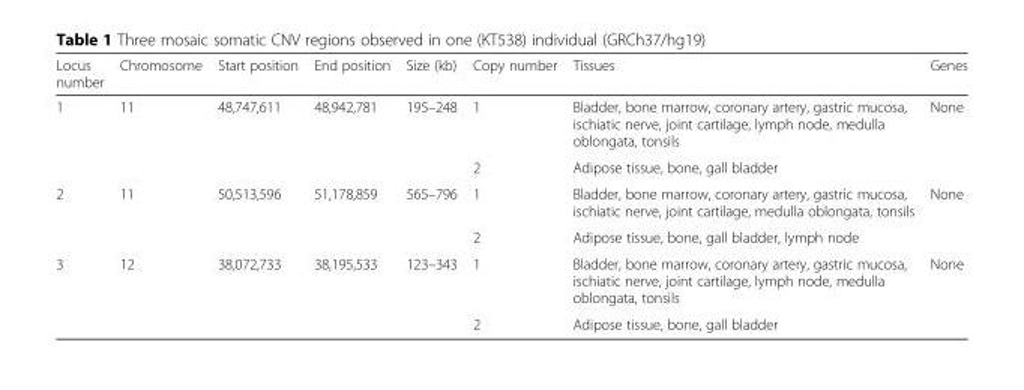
<table><thead><tr><td>Locus number</td><td>Chromosome</td><td>Start position</td><td>End position</td><td>Size (kb)</td><td>Copy number</td><td>Tissues</td><td>Genes</td></tr></thead><tbody><tr><td rowspan="2">1</td><td rowspan="2">11</td><td rowspan="2">48,747,611</td><td rowspan="2">48,942,781</td><td rowspan="2">195–248</td><td>1</td><td>Bladder, bone marrow, coronary artery, gastric mucosa, ischiatic nerve, joint cartilage, lymph node, medulla oblongata, tonsils</td><td rowspan="2">None</td></tr><tr><td>2</td><td>Adipose tissue, bone, gall bladder</td></tr><tr><td rowspan="2">2</td><td rowspan="2">11</td><td rowspan="2">50,513,596</td><td rowspan="2">51,178,859</td><td rowspan="2">565–796</td><td>1</td><td>Bladder, bone marrow, coronary artery, gastric mucosa, ischiatic nerve, joint cartilage, medulla oblongata, tonsils</td><td rowspan="2">None</td></tr><tr><td>2</td><td>Adipose tissue, bone, gall bladder, lymph node</td></tr><tr><td rowspan="2">3</td><td rowspan="2">12</td><td rowspan="2">38,072,733</td><td rowspan="2">38,195,533</td><td rowspan="2">123–343</td><td>1</td><td>Bladder, bone marrow, coronary artery, gastric mucosa, ischiatic nerve, joint cartilage, lymph node, medulla oblongata, tonsils</td><td rowspan="2">None</td></tr><tr><td>2</td><td>Adipose tissue, bone, gall bladder</td></tr></tbody></table>